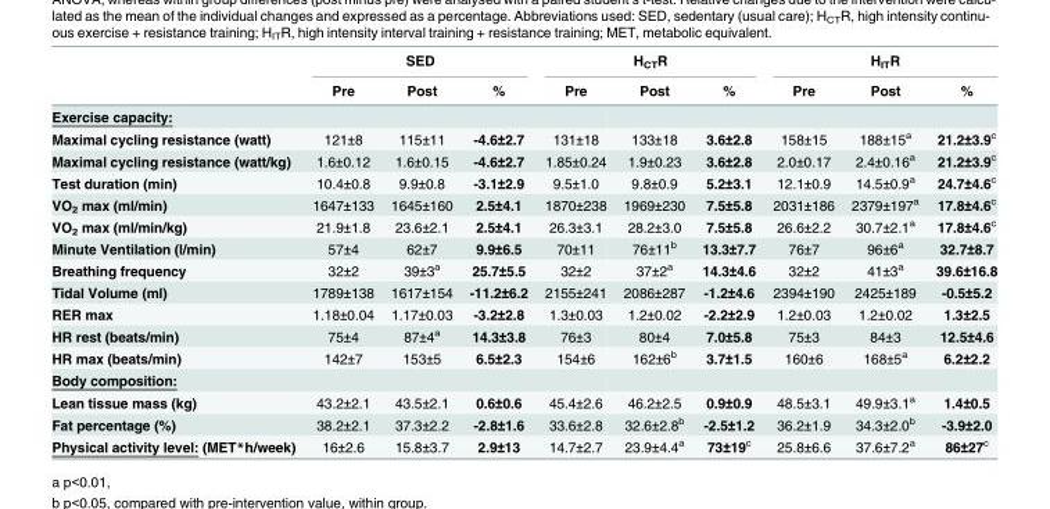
<table><thead><tr><td rowspan="2"></td><td colspan="3">SED</td><td colspan="3">H<sub>CT</sub>R</td><td colspan="3">H<sub>IT</sub>R</td></tr><tr><td>Pre</td><td>Post</td><td>%</td><td>Pre</td><td>Post</td><td>%</td><td>Pre</td><td>Post</td><td>%</td></tr></thead><tbody><tr><td colspan="10">Exercise capacity:</td></tr><tr><td>Maximal cycling resistance (watt)</td><td>121±8</td><td>115±11</td><td>-4.6±2.7</td><td>131±18</td><td>133±18</td><td>3.6±2.8</td><td>158±15</td><td>188±15<sup>a</sup></td><td>21.2±3.9<sup>c</sup></td></tr><tr><td>Maximal cycling resistance (watt/kg)</td><td>1.6±0.12</td><td>1.6±0.15</td><td>-4.6±2.7</td><td>1.85±0.24</td><td>1.9±0.23</td><td>3.6±2.8</td><td>2.0±0.17</td><td>2.4±0.16<sup>a</sup></td><td>21.2±3.9<sup>c</sup></td></tr><tr><td>Test duration (min)</td><td>10.4±0.8</td><td>9.9±0.8</td><td>-3.1±2.9</td><td>9.5±1.0</td><td>9.8±0.9</td><td>5.2±3.1</td><td>12.1±0.9</td><td>14.5±0.9<sup>a</sup></td><td>24.7±4.6<sup>c</sup></td></tr><tr><td>VO<sub>2</sub> max (ml/min)</td><td>1647±133</td><td>1645±160</td><td>2.5±4.1</td><td>1870±238</td><td>1969±230</td><td>7.5±5.8</td><td>2031±186</td><td>2379±197<sup>a</sup></td><td>17.8±4.6<sup>c</sup></td></tr><tr><td>VO<sub>2</sub> max (ml/min/kg)</td><td>21.9±1.8</td><td>23.6±2.1</td><td>2.5±4.1</td><td>26.3±3.1</td><td>28.2±3.0</td><td>7.5±5.8</td><td>26.6±2.2</td><td>30.7±2.1<sup>a</sup></td><td>17.8±4.6<sup>c</sup></td></tr><tr><td>Minute Ventilation (l/min)</td><td>57±4</td><td>62±7</td><td>9.9±6.5</td><td>70±11</td><td>76±11<sup>b</sup></td><td>13.3±7.7</td><td>76±7</td><td>96±6<sup>a</sup></td><td>32.7±8.7</td></tr><tr><td>Breathing frequency</td><td>32±2</td><td>39±3<sup>a</sup></td><td>25.7±5.5</td><td>32±2</td><td>37±2<sup>a</sup></td><td>14.3±4.6</td><td>32±2</td><td>41±3<sup>a</sup></td><td>39.6±16.8</td></tr><tr><td>Tidal Volume (ml)</td><td>1789±138</td><td>1617±154</td><td>-11.2±6.2</td><td>2155±241</td><td>2086±287</td><td>-1.2±4.6</td><td>2394±190</td><td>2425±189</td><td>-0.5±5.2</td></tr><tr><td>RER max</td><td>1.18±0.04</td><td>1.17±0.03</td><td>-3.2±2.8</td><td>1.3±0.03</td><td>1.2±0.02</td><td>-2.2±2.9</td><td>1.2±0.03</td><td>1.2±0.02</td><td>1.3±2.5</td></tr><tr><td>HR rest (beats/min)</td><td>75±4</td><td>87±4<sup>a</sup></td><td>14.3±3.8</td><td>76±3</td><td>80±4</td><td>7.0±5.8</td><td>75±3</td><td>84±3</td><td>12.5±4.6</td></tr><tr><td>HR max (beats/min)</td><td>142±7</td><td>153±5</td><td>6.5±2.3</td><td>154±6</td><td>162±6<sup>b</sup></td><td>3.7±1.5</td><td>160±6</td><td>168±5<sup>a</sup></td><td>6.2±2.2</td></tr><tr><td colspan="10">Body composition:</td></tr><tr><td>Lean tissue mass (kg)</td><td>43.2±2.1</td><td>43.5±2.1</td><td>0.6±0.6</td><td>45.4±2.6</td><td>46.2±2.5</td><td>0.9±0.9</td><td>48.5±3.1</td><td>49.9±3.1<sup>a</sup></td><td>1.4±0.5</td></tr><tr><td>Fat percentage (%)</td><td>38.2±2.1</td><td>37.3±2.2</td><td>-2.8±1.6</td><td>33.6±2.8</td><td>32.6±2.8<sup>b</sup></td><td>-2.5±1.2</td><td>36.2±1.9</td><td>34.3±2.0<sup>b</sup></td><td>-3.9±2.0</td></tr><tr><td>Physical activity level: (MET*h/week)</td><td>16±2.6</td><td>15.8±3.7</td><td>2.9±13</td><td>14.7±2.7</td><td>23.9±4.4<sup>a</sup></td><td>73±19<sup>c</sup></td><td>25.8±6.6</td><td>37.6±7.2<sup>a</sup></td><td>86±27<sup>c</sup></td></tr></tbody></table>